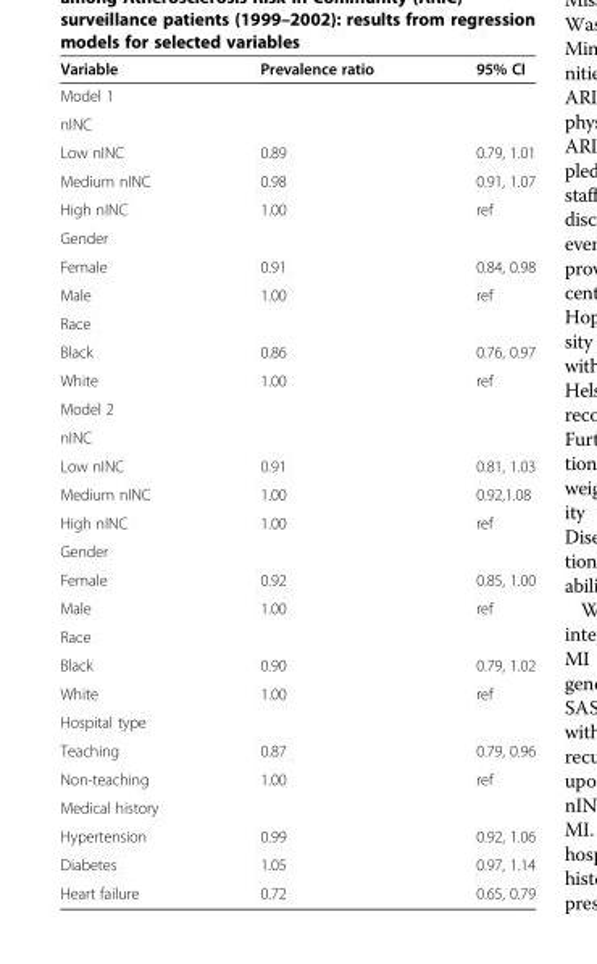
<table><thead><tr><td>Variable</td><td>Prevalence ratio</td><td>95% CI</td></tr></thead><tbody><tr><td colspan="3">Model 1</td></tr><tr><td colspan="3">nINC</td></tr><tr><td>Low nINC</td><td>0.89</td><td>0.79, 1.01</td></tr><tr><td>Medium nINC</td><td>0.98</td><td>0.91, 1.07</td></tr><tr><td>High nINC</td><td>1.00</td><td>ref</td></tr><tr><td colspan="3">Gender</td></tr><tr><td>Female</td><td>0.91</td><td>0.84, 0.98</td></tr><tr><td>Male</td><td>1.00</td><td>ref</td></tr><tr><td colspan="3">Race</td></tr><tr><td>Black</td><td>0.86</td><td>0.76, 0.97</td></tr><tr><td>White</td><td>1.00</td><td>ref</td></tr><tr><td colspan="3">Model 2</td></tr><tr><td colspan="3">nINC</td></tr><tr><td>Low nINC</td><td>0.91</td><td>0.81, 1.03</td></tr><tr><td>Medium nINC</td><td>1.00</td><td>0.92,1.08</td></tr><tr><td>High nINC</td><td>1.00</td><td>ref</td></tr><tr><td colspan="3">Gender</td></tr><tr><td>Female</td><td>0.92</td><td>0.85, 1.00</td></tr><tr><td>Male</td><td>1.00</td><td>ref</td></tr><tr><td colspan="3">Race</td></tr><tr><td>Black</td><td>0.90</td><td>0.79, 1.02</td></tr><tr><td>White</td><td>1.00</td><td>ref</td></tr><tr><td colspan="3">Hospital type</td></tr><tr><td>Teaching</td><td>0.87</td><td>0.79, 0.96</td></tr><tr><td>Non-teaching</td><td>1.00</td><td>ref</td></tr><tr><td colspan="3">Medical history</td></tr><tr><td>Hypertension</td><td>0.99</td><td>0.92, 1.06</td></tr><tr><td>Diabetes</td><td>1.05</td><td>0.97, 1.14</td></tr><tr><td>Heart failure</td><td>0.72</td><td>0.65, 0.79</td></tr></tbody></table>